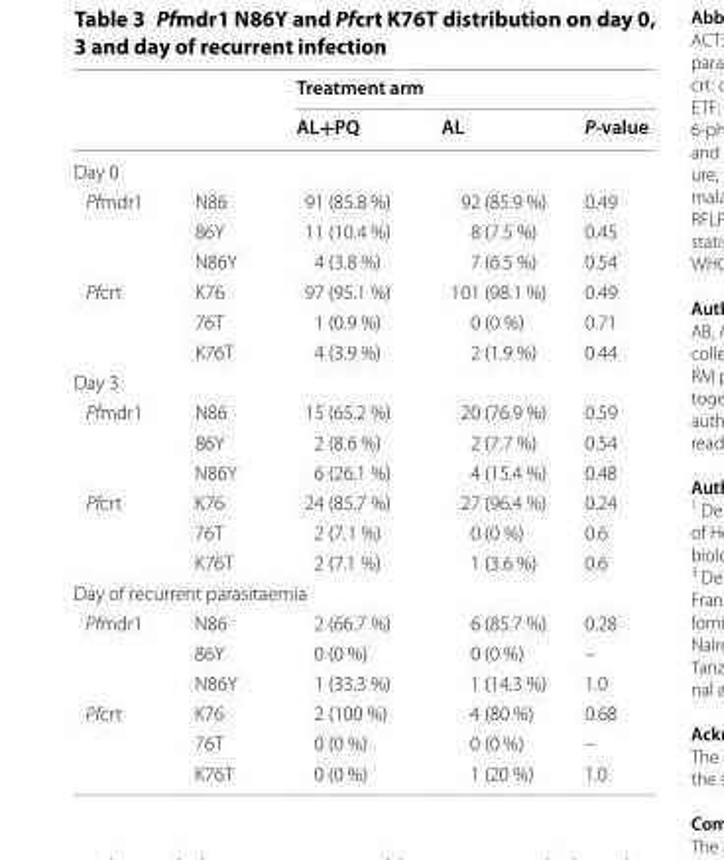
<table><thead><tr><td rowspan="2"></td><td rowspan="2"></td><td colspan="3">Treatment arm</td></tr><tr><td>AL+PQ</td><td>AL</td><td>P‑value</td></tr></thead><tbody><tr><td colspan="5">Day 0</td></tr><tr><td rowspan="3">Pfmdr1</td><td>N86</td><td>91 (85.8 %)</td><td>92 (85.9 %)</td><td>0.49</td></tr><tr><td>86Y</td><td>11 (10.4 %)</td><td>8 (7.5 %)</td><td>0.45</td></tr><tr><td>N86Y</td><td>4 (3.8 %)</td><td>7 (6.5 %)</td><td>0.54</td></tr><tr><td rowspan="3">Pfcrt</td><td>K76</td><td>97 (95.1 %)</td><td>101 (98.1 %)</td><td>0.49</td></tr><tr><td>76T</td><td>1 (0.9 %)</td><td>0 (0 %)</td><td>0.71</td></tr><tr><td>K76T</td><td>4 (3.9 %)</td><td>2 (1.9 %)</td><td>0.44</td></tr><tr><td colspan="5">Day 3</td></tr><tr><td rowspan="3">Pfmdr1</td><td>N86</td><td>15 (65.2 %)</td><td>20 (76.9 %)</td><td>0.59</td></tr><tr><td>86Y</td><td>2 (8.6 %)</td><td>2 (7.7 %)</td><td>0.54</td></tr><tr><td>N86Y</td><td>6 (26.1 %)</td><td>4 (15.4 %)</td><td>0.48</td></tr><tr><td rowspan="3">Pfcrt</td><td>K76</td><td>24 (85.7 %)</td><td>27 (96.4 %)</td><td>0.24</td></tr><tr><td>76T</td><td>2 (7.1 %)</td><td>0 (0 %)</td><td>0.6</td></tr><tr><td>K76T</td><td>2 (7.1 %)</td><td>1 (3.6 %)</td><td>0.6</td></tr><tr><td colspan="5">Day of recurrent parasitaemia</td></tr><tr><td rowspan="3">Pfmdr1</td><td>N86</td><td>2 (66.7 %)</td><td>6 (85.7 %)</td><td>0.28</td></tr><tr><td>86Y</td><td>0 (0 %)</td><td>0 (0 %)</td><td>–</td></tr><tr><td>N86Y</td><td>1 (33.3 %)</td><td>1 (14.3 %)</td><td>1.0</td></tr><tr><td rowspan="3">Pfcrt</td><td>K76</td><td>2 (100 %)</td><td>4 (80 %)</td><td>0.68</td></tr><tr><td>76T</td><td>0 (0 %)</td><td>0 (0 %)</td><td>–</td></tr><tr><td>K76T</td><td>0 (0 %)</td><td>1 (20 %)</td><td>1.0</td></tr></tbody></table>